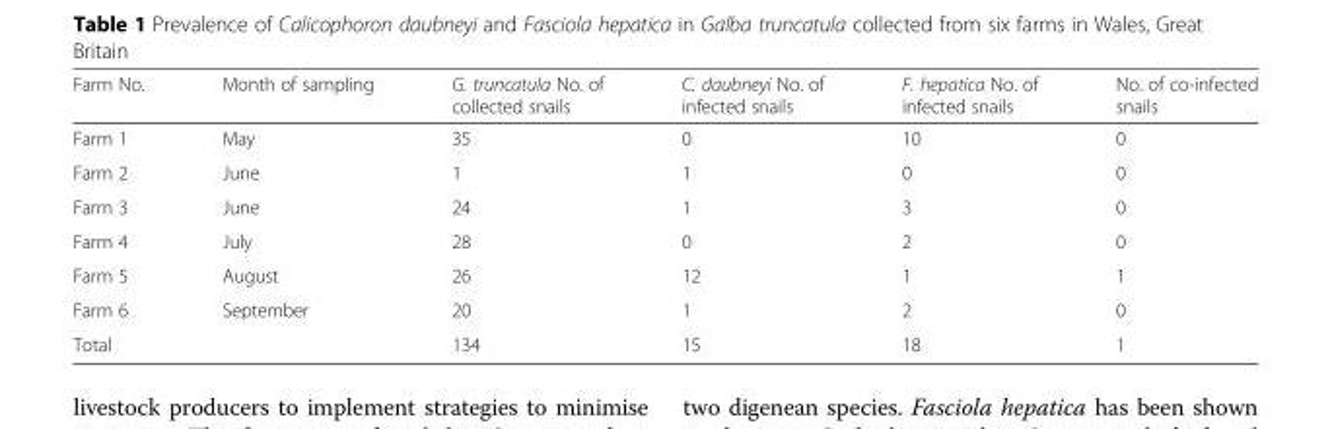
<table><thead><tr><td>Farm No.</td><td>Month of sampling</td><td>G. truncatula No. of collected snails</td><td>C. daubneyi No. of infected snails</td><td>F. hepatica No. of infected snails</td><td>No. of co-infected snails</td></tr></thead><tbody><tr><td>Farm 1</td><td>May</td><td>35</td><td>0</td><td>10</td><td>0</td></tr><tr><td>Farm 2</td><td>June</td><td>1</td><td>1</td><td>0</td><td>0</td></tr><tr><td>Farm 3</td><td>June</td><td>24</td><td>1</td><td>3</td><td>0</td></tr><tr><td>Farm 4</td><td>July</td><td>28</td><td>0</td><td>2</td><td>0</td></tr><tr><td>Farm 5</td><td>August</td><td>26</td><td>12</td><td>1</td><td>1</td></tr><tr><td>Farm 6</td><td>September</td><td>20</td><td>1</td><td>2</td><td>0</td></tr><tr><td>Total</td><td></td><td>134</td><td>15</td><td>18</td><td>1</td></tr></tbody></table>